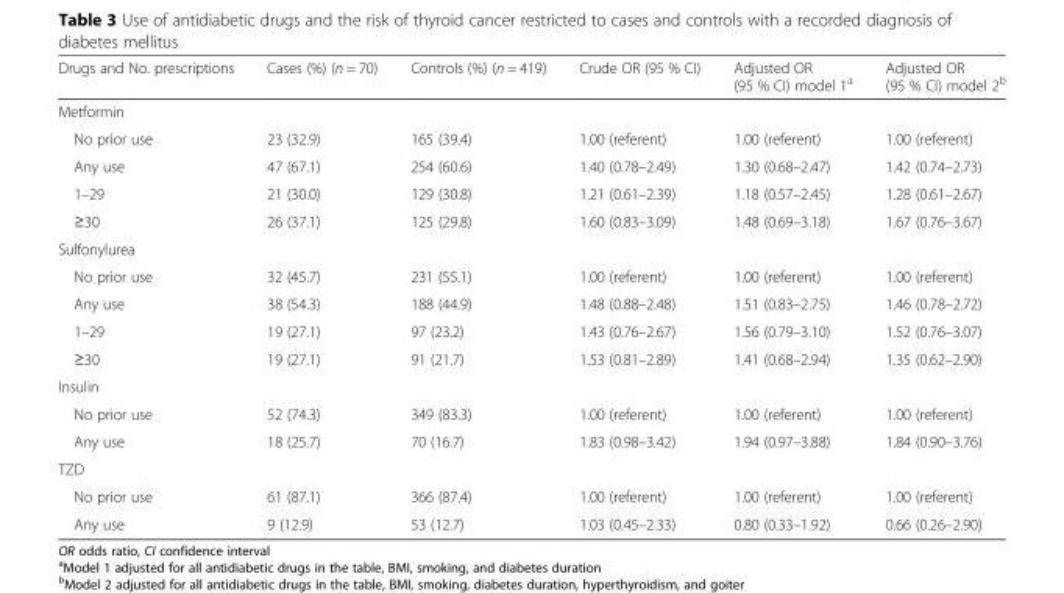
<table><thead><tr><td>Drugs and No. prescriptions</td><td>Cases (%) (n = 70)</td><td>Controls (%) (n = 419)</td><td>Crude OR (95 % CI)</td><td>Adjusted OR (95 % CI) model 1<sup>a</sup></td><td>Adjusted OR (95 % CI) model 2<sup>b</sup></td></tr></thead><tbody><tr><td colspan="6">Metformin</td></tr><tr><td>No prior use</td><td>23 (32.9)</td><td>165 (39.4)</td><td>1.00 (referent)</td><td>1.00 (referent)</td><td>1.00 (referent)</td></tr><tr><td>Any use</td><td>47 (67.1)</td><td>254 (60.6)</td><td>1.40 (0.78–2.49)</td><td>1.30 (0.68–2.47)</td><td>1.42 (0.74–2.73)</td></tr><tr><td>1–29</td><td>21 (30.0)</td><td>129 (30.8)</td><td>1.21 (0.61–2.39)</td><td>1.18 (0.57–2.45)</td><td>1.28 (0.61–2.67)</td></tr><tr><td>≥30</td><td>26 (37.1)</td><td>125 (29.8)</td><td>1.60 (0.83–3.09)</td><td>1.48 (0.69–3.18)</td><td>1.67 (0.76–3.67)</td></tr><tr><td colspan="6">Sulfonylurea</td></tr><tr><td>No prior use</td><td>32 (45.7)</td><td>231 (55.1)</td><td>1.00 (referent)</td><td>1.00 (referent)</td><td>1.00 (referent)</td></tr><tr><td>Any use</td><td>38 (54.3)</td><td>188 (44.9)</td><td>1.48 (0.88–2.48)</td><td>1.51 (0.83–2.75)</td><td>1.46 (0.78–2.72)</td></tr><tr><td>1–29</td><td>19 (27.1)</td><td>97 (23.2)</td><td>1.43 (0.76–2.67)</td><td>1.56 (0.79–3.10)</td><td>1.52 (0.76–3.07)</td></tr><tr><td>≥30</td><td>19 (27.1)</td><td>91 (21.7)</td><td>1.53 (0.81–2.89)</td><td>1.41 (0.68–2.94)</td><td>1.35 (0.62–2.90)</td></tr><tr><td colspan="6">Insulin</td></tr><tr><td>No prior use</td><td>52 (74.3)</td><td>349 (83.3)</td><td>1.00 (referent)</td><td>1.00 (referent)</td><td>1.00 (referent)</td></tr><tr><td>Any use</td><td>18 (25.7)</td><td>70 (16.7)</td><td>1.83 (0.98–3.42)</td><td>1.94 (0.97–3.88)</td><td>1.84 (0.90–3.76)</td></tr><tr><td colspan="6">TZD</td></tr><tr><td>No prior use</td><td>61 (87.1)</td><td>366 (87.4)</td><td>1.00 (referent)</td><td>1.00 (referent)</td><td>1.00 (referent)</td></tr><tr><td>Any use</td><td>9 (12.9)</td><td>53 (12.7)</td><td>1.03 (0.45–2.33)</td><td>0.80 (0.33–1.92)</td><td>0.66 (0.26–2.90)</td></tr></tbody></table>